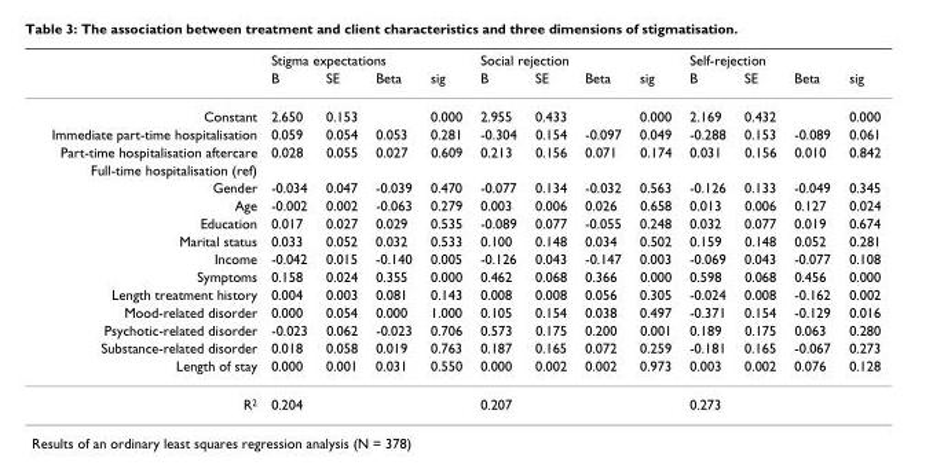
<table><thead><tr><td rowspan="2"></td><td colspan="4">Stigma expectations</td><td colspan="4">Social rejection</td><td colspan="4">Self-rejection</td></tr><tr><td>B</td><td>SE</td><td>Beta</td><td>sig</td><td>B</td><td>SE</td><td>Beta</td><td>sig</td><td>B</td><td>SE</td><td>Beta</td><td>sig</td></tr></thead><tbody><tr><td>Constant</td><td>2.650</td><td>0.153</td><td></td><td>0.000</td><td>2.955</td><td>0.433</td><td></td><td>0.000</td><td>2.169</td><td>0.432</td><td></td><td>0.000</td></tr><tr><td>Immediate part-time hospitalisation</td><td>0.059</td><td>0.054</td><td>0.053</td><td>0.281</td><td>-0.304</td><td>0.154</td><td>-0.097</td><td>0.049</td><td>-0.288</td><td>0.153</td><td>-0.089</td><td>0.061</td></tr><tr><td>Part-time hospitalisation aftercare</td><td>0.028</td><td>0.055</td><td>0.027</td><td>0.609</td><td>0.213</td><td>0.156</td><td>0.071</td><td>0.174</td><td>0.031</td><td>0.156</td><td>0.010</td><td>0.842</td></tr><tr><td colspan="13">Full-time hospitalisation (ref)</td></tr><tr><td>Gender</td><td>-0.034</td><td>0.047</td><td>-0.039</td><td>0.470</td><td>-0.077</td><td>0.134</td><td>-0.032</td><td>0.563</td><td>-0.126</td><td>0.133</td><td>-0.049</td><td>0.345</td></tr><tr><td>Age</td><td>-0.002</td><td>0.002</td><td>-0.063</td><td>0.279</td><td>0.003</td><td>0.006</td><td>0.026</td><td>0.658</td><td>0.013</td><td>0.006</td><td>0.127</td><td>0.024</td></tr><tr><td>Education</td><td>0.017</td><td>0.027</td><td>0.029</td><td>0.535</td><td>-0.089</td><td>0.077</td><td>-0.055</td><td>0.248</td><td>0.032</td><td>0.077</td><td>0.019</td><td>0.674</td></tr><tr><td>Marital status</td><td>0.033</td><td>0.052</td><td>0.032</td><td>0.533</td><td>0.100</td><td>0.148</td><td>0.034</td><td>0.502</td><td>0.159</td><td>0.148</td><td>0.052</td><td>0.281</td></tr><tr><td>Income</td><td>-0.042</td><td>0.015</td><td>-0.140</td><td>0.005</td><td>-0.126</td><td>0.043</td><td>-0.147</td><td>0.003</td><td>-0.069</td><td>0.043</td><td>-0.077</td><td>0.108</td></tr><tr><td>Symptoms</td><td>0.158</td><td>0.024</td><td>0.355</td><td>0.000</td><td>0.462</td><td>0.068</td><td>0.366</td><td>0.000</td><td>0.598</td><td>0.068</td><td>0.456</td><td>0.000</td></tr><tr><td>Length treatment history</td><td>0.004</td><td>0.003</td><td>0.081</td><td>0.143</td><td>0.008</td><td>0.008</td><td>0.056</td><td>0.305</td><td>-0.024</td><td>0.008</td><td>-0.162</td><td>0.002</td></tr><tr><td>Mood-related disorder</td><td>0.000</td><td>0.054</td><td>0.000</td><td>1.000</td><td>0.105</td><td>0.154</td><td>0.038</td><td>0.497</td><td>-0.371</td><td>0.154</td><td>-0.129</td><td>0.016</td></tr><tr><td>Psychotic-related disorder</td><td>-0.023</td><td>0.062</td><td>-0.023</td><td>0.706</td><td>0.573</td><td>0.175</td><td>0.200</td><td>0.001</td><td>0.189</td><td>0.175</td><td>0.063</td><td>0.280</td></tr><tr><td>Substance-related disorder</td><td>0.018</td><td>0.058</td><td>0.019</td><td>0.763</td><td>0.187</td><td>0.165</td><td>0.072</td><td>0.259</td><td>-0.181</td><td>0.165</td><td>-0.067</td><td>0.273</td></tr><tr><td>Length of stay</td><td>0.000</td><td>0.001</td><td>0.031</td><td>0.550</td><td>0.000</td><td>0.002</td><td>0.002</td><td>0.973</td><td>0.003</td><td>0.002</td><td>0.076</td><td>0.128</td></tr><tr><td>R<sup>2</sup></td><td>0.204</td><td></td><td></td><td></td><td>0.207</td><td></td><td></td><td></td><td>0.273</td><td></td><td></td><td></td></tr></tbody></table>